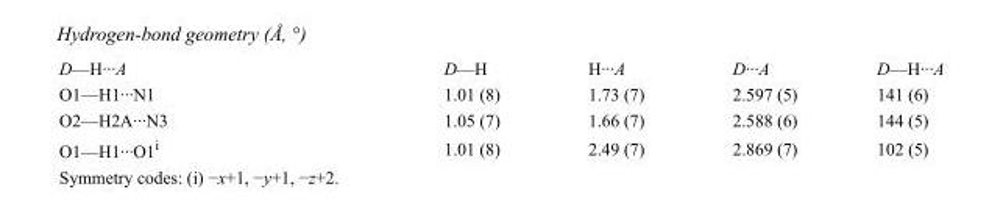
<table><tbody><tr><td>D—H···A</td><td>D—H</td><td>H···A</td><td>D···A</td><td>D—H···A</td></tr><tr><td>O1—H1···N1</td><td>1.01 (8)</td><td>1.73 (7)</td><td>2.597 (5)</td><td>141 (6)</td></tr><tr><td>O2—H2A···N3</td><td>1.05 (7)</td><td>1.66 (7)</td><td>2.588 (6)</td><td>144 (5)</td></tr><tr><td>O1—H1···O1<sup>i</sup></td><td>1.01 (8)</td><td>2.49 (7)</td><td>2.869 (7)</td><td>102 (5)</td></tr></tbody></table>